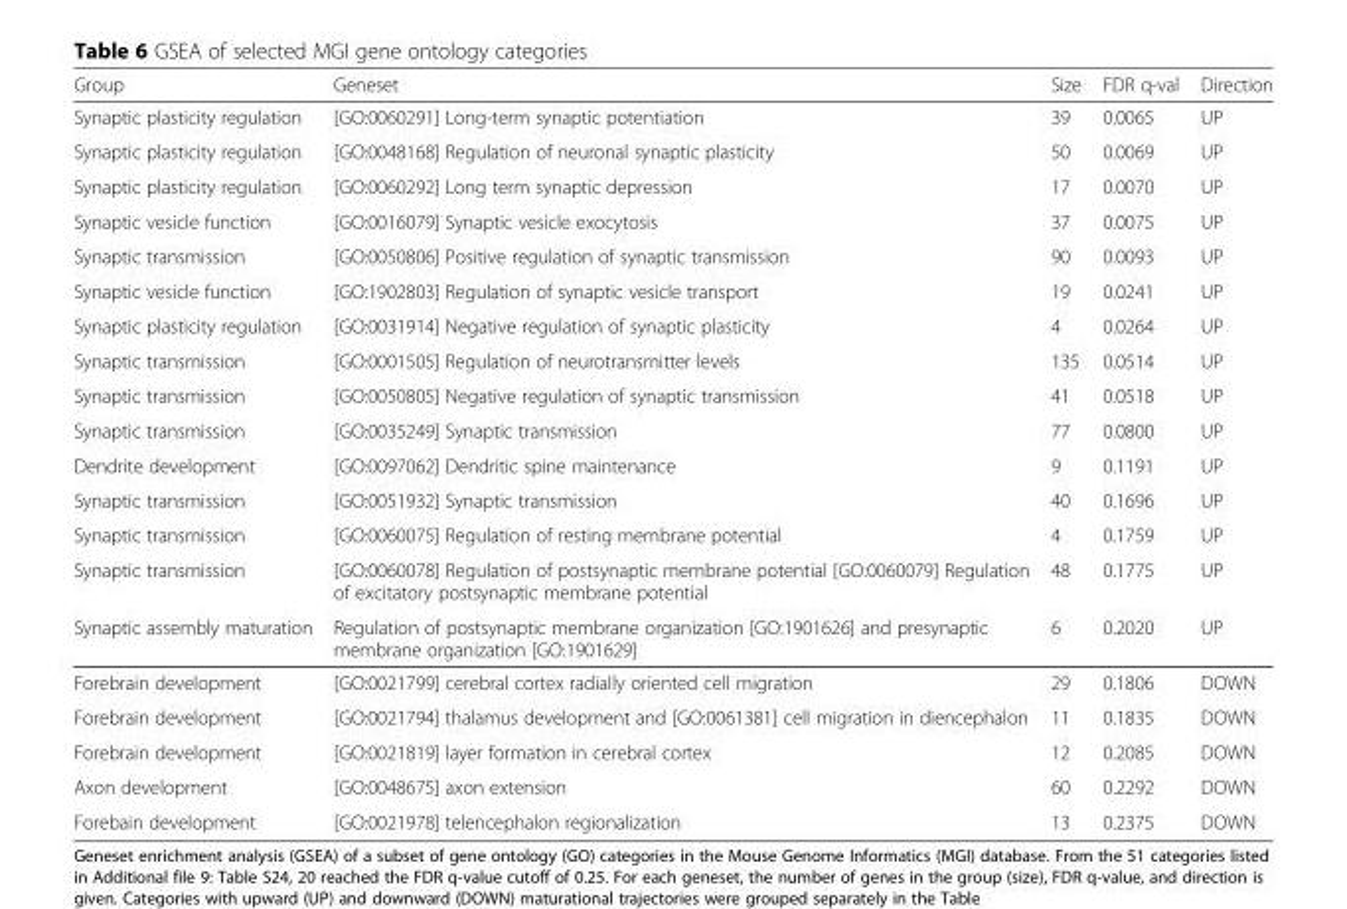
<table><thead><tr><td>Group</td><td>Geneset</td><td>Size</td><td>FDR q-val</td><td>Direction</td></tr></thead><tbody><tr><td>Synaptic plasticity regulation</td><td>[GO:0060291] Long-term synaptic potentiation</td><td>39</td><td>0.0065</td><td>UP</td></tr><tr><td>Synaptic plasticity regulation</td><td>[GO:0048168] Regulation of neuronal synaptic plasticity</td><td>50</td><td>0.0069</td><td>UP</td></tr><tr><td>Synaptic plasticity regulation</td><td>[GO:0060292] Long term synaptic depression</td><td>17</td><td>0.0070</td><td>UP</td></tr><tr><td>Synaptic vesicle function</td><td>[GO:0016079] Synaptic vesicle exocytosis</td><td>37</td><td>0.0075</td><td>UP</td></tr><tr><td>Synaptic transmission</td><td>[GO:0050806] Positive regulation of synaptic transmission</td><td>90</td><td>0.0093</td><td>UP</td></tr><tr><td>Synaptic vesicle function</td><td>[GO:1902803] Regulation of synaptic vesicle transport</td><td>19</td><td>0.0241</td><td>UP</td></tr><tr><td>Synaptic plasticity regulation</td><td>[GO:0031914] Negative regulation of synaptic plasticity</td><td>4</td><td>0.0264</td><td>UP</td></tr><tr><td>Synaptic transmission</td><td>[GO:0001505] Regulation of neurotransmitter levels</td><td>135</td><td>0.0514</td><td>UP</td></tr><tr><td>Synaptic transmission</td><td>[GO:0050805] Negative regulation of synaptic transmission</td><td>41</td><td>0.0518</td><td>UP</td></tr><tr><td>Synaptic transmission</td><td>[GO:0035249] Synaptic transmission</td><td>77</td><td>0.0800</td><td>UP</td></tr><tr><td>Dendrite development</td><td>[GO:0097062] Dendritic spine maintenance</td><td>9</td><td>0.1191</td><td>UP</td></tr><tr><td>Synaptic transmission</td><td>[GO:0051932] Synaptic transmission</td><td>40</td><td>0.1696</td><td>UP</td></tr><tr><td>Synaptic transmission</td><td>[GO:0060075] Regulation of resting membrane potential</td><td>4</td><td>0.1759</td><td>UP</td></tr><tr><td>Synaptic transmission</td><td>[GO:0060078] Regulation of postsynaptic membrane potential [GO:0060079] Regulation of excitatory postsynaptic membrane potential</td><td>48</td><td>0.1775</td><td>UP</td></tr><tr><td>Synaptic assembly maturation</td><td>Regulation of postsynaptic membrane organization [GO:1901626] and presynaptic membrane organization [GO:1901629]</td><td>6</td><td>0.2020</td><td>UP</td></tr><tr><td>Forebrain development</td><td>[GO:0021799] cerebral cortex radially oriented cell migration</td><td>29</td><td>0.1806</td><td>DOWN</td></tr><tr><td>Forebrain development</td><td>[GO:0021794] thalamus development and [GO:0061381] cell migration in diencephalon</td><td>11</td><td>0.1835</td><td>DOWN</td></tr><tr><td>Forebrain development</td><td>[GO:0021819] layer formation in cerebral cortex</td><td>12</td><td>0.2085</td><td>DOWN</td></tr><tr><td>Axon development</td><td>[GO:0048675] axon extension</td><td>60</td><td>0.2292</td><td>DOWN</td></tr><tr><td>Forebain development</td><td>[GO:0021978] telencephalon regionalization</td><td>13</td><td>0.2375</td><td>DOWN</td></tr></tbody></table>